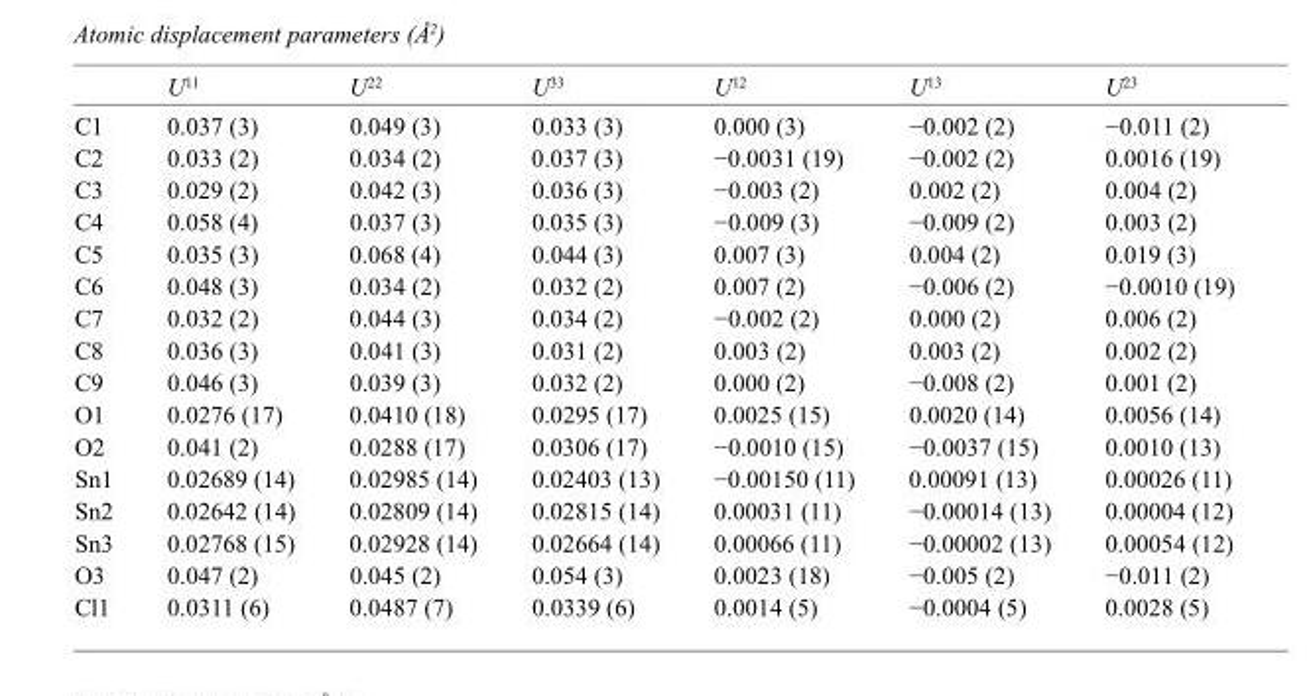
<table><thead><tr><td></td><td>U<sup>11</sup></td><td>U<sup>22</sup></td><td>U<sup>33</sup></td><td>U<sup>12</sup></td><td>U<sup>13</sup></td><td>U<sup>23</sup></td></tr></thead><tbody><tr><td>C1</td><td>0.037 (3)</td><td>0.049 (3)</td><td>0.033 (3)</td><td>0.000 (3)</td><td>−0.002 (2)</td><td>−0.011 (2)</td></tr><tr><td>C2</td><td>0.033 (2)</td><td>0.034 (2)</td><td>0.037 (3)</td><td>−0.0031 (19)</td><td>−0.002 (2)</td><td>0.0016 (19)</td></tr><tr><td>C3</td><td>0.029 (2)</td><td>0.042 (3)</td><td>0.036 (3)</td><td>−0.003 (2)</td><td>0.002 (2)</td><td>0.004 (2)</td></tr><tr><td>C4</td><td>0.058 (4)</td><td>0.037 (3)</td><td>0.035 (3)</td><td>−0.009 (3)</td><td>−0.009 (2)</td><td>0.003 (2)</td></tr><tr><td>C5</td><td>0.035 (3)</td><td>0.068 (4)</td><td>0.044 (3)</td><td>0.007 (3)</td><td>0.004 (2)</td><td>0.019 (3)</td></tr><tr><td>C6</td><td>0.048 (3)</td><td>0.034 (2)</td><td>0.032 (2)</td><td>0.007 (2)</td><td>−0.006 (2)</td><td>−0.0010 (19)</td></tr><tr><td>C7</td><td>0.032 (2)</td><td>0.044 (3)</td><td>0.034 (2)</td><td>−0.002 (2)</td><td>0.000 (2)</td><td>0.006 (2)</td></tr><tr><td>C8</td><td>0.036 (3)</td><td>0.041 (3)</td><td>0.031 (2)</td><td>0.003 (2)</td><td>0.003 (2)</td><td>0.002 (2)</td></tr><tr><td>C9</td><td>0.046 (3)</td><td>0.039 (3)</td><td>0.032 (2)</td><td>0.000 (2)</td><td>−0.008 (2)</td><td>0.001 (2)</td></tr><tr><td>O1</td><td>0.0276 (17)</td><td>0.0410 (18)</td><td>0.0295 (17)</td><td>0.0025 (15)</td><td>0.0020 (14)</td><td>0.0056 (14)</td></tr><tr><td>O2</td><td>0.041 (2)</td><td>0.0288 (17)</td><td>0.0306 (17)</td><td>−0.0010 (15)</td><td>−0.0037 (15)</td><td>0.0010 (13)</td></tr><tr><td>Sn1</td><td>0.02689 (14)</td><td>0.02985 (14)</td><td>0.02403 (13)</td><td>−0.00150 (11)</td><td>0.00091 (13)</td><td>0.00026 (11)</td></tr><tr><td>Sn2</td><td>0.02642 (14)</td><td>0.02809 (14)</td><td>0.02815 (14)</td><td>0.00031 (11)</td><td>−0.00014 (13)</td><td>0.00004 (12)</td></tr><tr><td>Sn3</td><td>0.02768 (15)</td><td>0.02928 (14)</td><td>0.02664 (14)</td><td>0.00066 (11)</td><td>−0.00002 (13)</td><td>0.00054 (12)</td></tr><tr><td>O3</td><td>0.047 (2)</td><td>0.045 (2)</td><td>0.054 (3)</td><td>0.0023 (18)</td><td>−0.005 (2)</td><td>−0.011 (2)</td></tr><tr><td>Cl1</td><td>0.0311 (6)</td><td>0.0487 (7)</td><td>0.0339 (6)</td><td>0.0014 (5)</td><td>−0.0004 (5)</td><td>0.0028 (5)</td></tr></tbody></table>